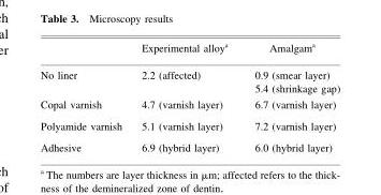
<table><thead><tr><td></td><td>Experimental alloy<sup>a</sup></td><td>Amalgam<sup>a</sup></td></tr></thead><tbody><tr><td>No liner</td><td>2.2 (affected)</td><td>0.9 (smear layer) 5.4 (shrinkage gap)</td></tr><tr><td>Copal varnish</td><td>4.7 (varnish layer)</td><td>6.7 (varnish layer)</td></tr><tr><td>Polyamide varnish</td><td>5.1 (varnish layer)</td><td>7.2 (varnish layer)</td></tr><tr><td>Adhesive</td><td>6.9 (hybrid layer)</td><td>6.0 (hybrid layer)</td></tr></tbody></table>